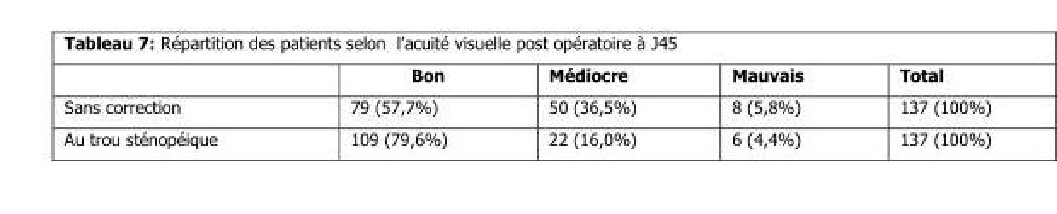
<table><thead><tr><td></td><td>Bon</td><td>Médiocre</td><td>Mauvais</td><td>Total</td></tr></thead><tbody><tr><td>Sans correction</td><td>79 (57,7%)</td><td>50 (36,5%)</td><td>8 (5,8%)</td><td>137 (100%)</td></tr><tr><td>Au trou sténopéique</td><td>109 (79,6%)</td><td>22 (16,0%)</td><td>6 (4,4%)</td><td>137 (100%)</td></tr></tbody></table>